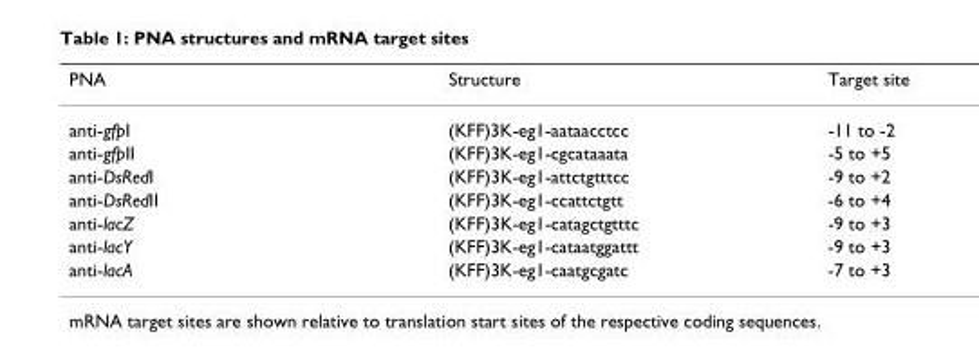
<table><thead><tr><td>PNA</td><td>Structure</td><td>Target site</td></tr></thead><tbody><tr><td>anti-gfpI</td><td>(KFF)3K-eg1-aataacctcc</td><td>-11 to -2</td></tr><tr><td>anti-gfpII</td><td>(KFF)3K-eg1-cgcataaata</td><td>-5 to +5</td></tr><tr><td>anti-DsRedI</td><td>(KFF)3K-eg1-attctgtttcc</td><td>-9 to +2</td></tr><tr><td>anti-DsRedII</td><td>(KFF)3K-eg1-ccattctgtt</td><td>-6 to +4</td></tr><tr><td>anti-lacZ</td><td>(KFF)3K-eg1-catagctgtttc</td><td>-9 to +3</td></tr><tr><td>anti-lacY</td><td>(KFF)3K-eg1-cataatggattt</td><td>-9 to +3</td></tr><tr><td>anti-lacA</td><td>(KFF)3K-eg1-caatgcgatc</td><td>-7 to +3</td></tr></tbody></table>